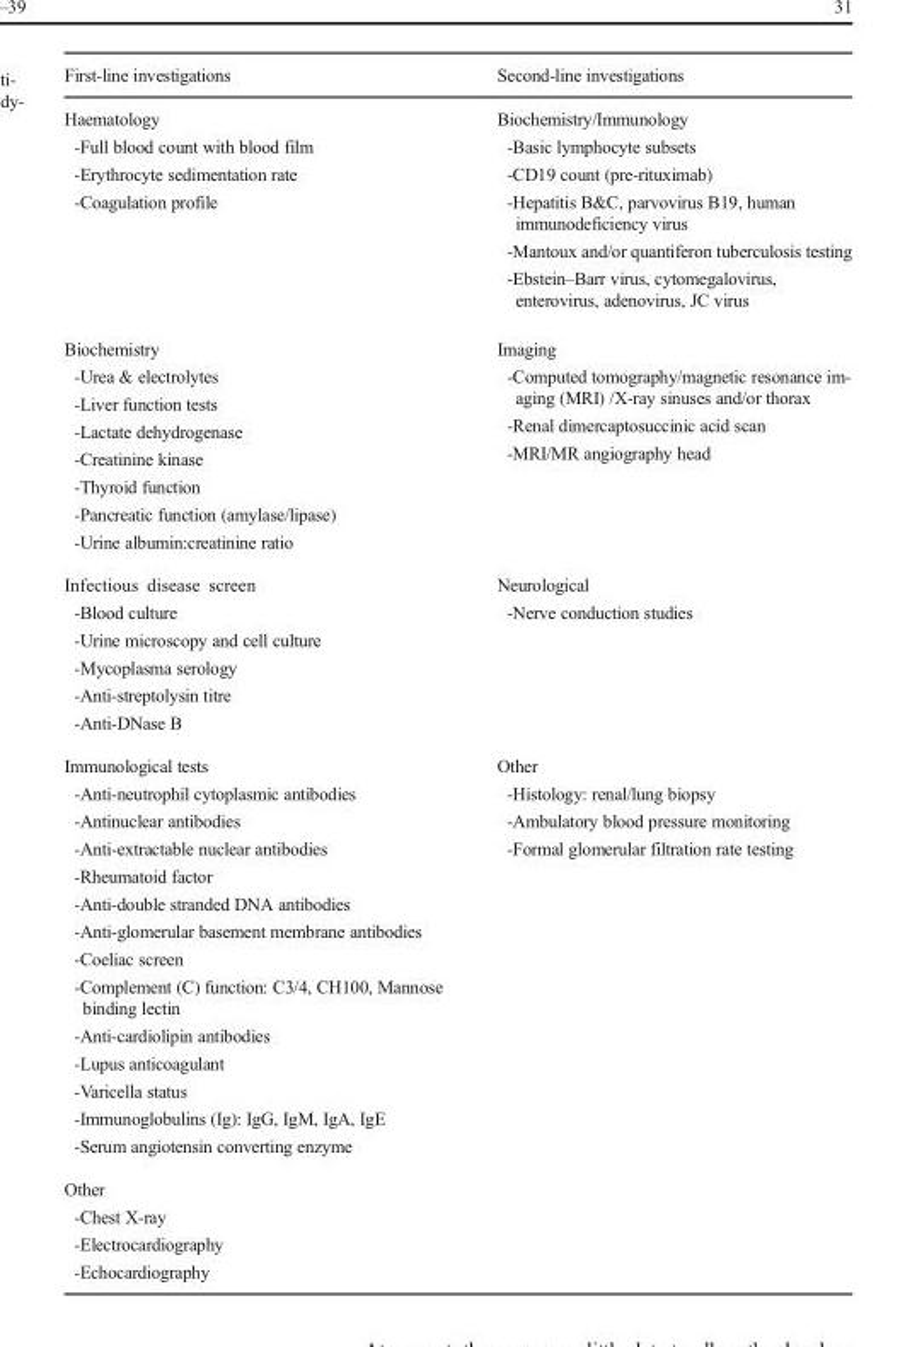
<table><thead><tr><td>First-line investigations</td><td>Second-line investigations</td></tr></thead><tbody><tr><td>Haematology -Full blood count with blood film -Erythrocyte sedimentation rate -Coagulation profile</td><td>Biochemistry/Immunology -Basic lymphocyte subsets -CD19 count (pre-rituximab) -Hepatitis B&amp;C, parvovirus B19, human immunodeficiency virus -Mantoux and/or quantiferon tuberculosis testing -Ebstein–Barr virus, cytomegalovirus, enterovirus, adenovirus, JC virus</td></tr><tr><td>Biochemistry -Urea &amp; electrolytes -Liver function tests -Lactate dehydrogenase -Creatinine kinase -Thyroid function -Pancreatic function (amylase/lipase) -Urine albumin:creatinine ratio</td><td>Imaging -Computed tomography/magnetic resonance im- aging (MRI) /X-ray sinuses and/or thorax -Renal dimercaptosuccinic acid scan -MRI/MR angiography head</td></tr><tr><td>Infectious disease screen -Blood culture -Urine microscopy and cell culture -Mycoplasma serology -Anti-streptolysin titre -Anti-DNase B</td><td>Neurological -Nerve conduction studies</td></tr><tr><td>Immunological tests -Anti-neutrophil cytoplasmic antibodies -Antinuclear antibodies -Anti-extractable nuclear antibodies -Rheumatoid factor -Anti-double stranded DNA antibodies -Anti-glomerular basement membrane antibodies -Coeliac screen -Complement (C) function: C3/4, CH100, Mannose binding lectin -Anti-cardiolipin antibodies -Lupus anticoagulant -Varicella status -Immunoglobulins (Ig): IgG, IgM, IgA, IgE -Serum angiotensin converting enzyme</td><td rowspan="2">Other -Histology: renal/lung biopsy -Ambulatory blood pressure monitoring -Formal glomerular filtration rate testing</td></tr><tr><td>Other -Chest X-ray -Electrocardiography -Echocardiography</td></tr></tbody></table>